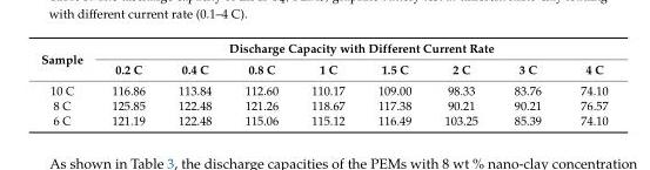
<table><thead><tr><td rowspan="2">Sample</td><td colspan="8">Discharge Capacity with Different Current Rate</td></tr><tr><td>0.2 C</td><td>0.4 C</td><td>0.8 C</td><td>1 C</td><td>1.5 C</td><td>2 C</td><td>3 C</td><td>4 C</td></tr></thead><tbody><tr><td>10 C</td><td>116.86</td><td>113.84</td><td>112.60</td><td>110.17</td><td>109.00</td><td>98.33</td><td>83.76</td><td>74.10</td></tr><tr><td>8 C</td><td>125.85</td><td>122.48</td><td>121.26</td><td>118.67</td><td>117.38</td><td>90.21</td><td>90.21</td><td>76.57</td></tr><tr><td>6 C</td><td>121.19</td><td>122.48</td><td>115.06</td><td>115.12</td><td>116.49</td><td>103.25</td><td>85.39</td><td>74.10</td></tr></tbody></table>